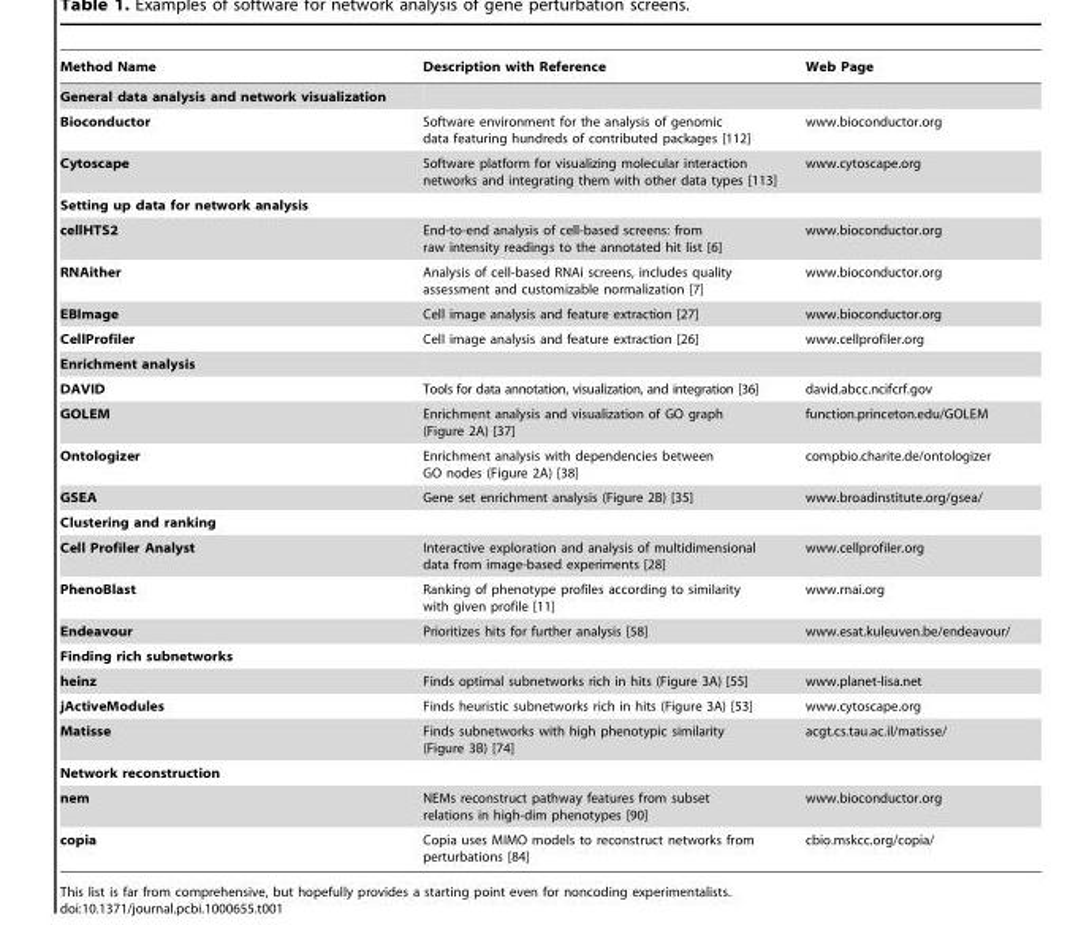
<table><thead><tr><td>Method Name</td><td>Description with Reference</td><td>Web Page</td></tr></thead><tbody><tr><td colspan="3">General data analysis and network visualization</td></tr><tr><td>Bioconductor</td><td>Software environment for the analysis of genomic data featuring hundreds of contributed packages [112]</td><td>www.bioconductor.org</td></tr><tr><td>Cytoscape</td><td>Software platform for visualizing molecular interaction networks and integrating them with other data types [113]</td><td>www.cytoscape.org</td></tr><tr><td colspan="3">Setting up data for network analysis</td></tr><tr><td>cellHTS2</td><td>End-to-end analysis of cell-based screens: from raw intensity readings to the annotated hit list [6]</td><td>www.bioconductor.org</td></tr><tr><td>RNAither</td><td>Analysis of cell-based RNAi screens, includes quality assessment and customizable normalization [7]</td><td>www.bioconductor.org</td></tr><tr><td>EBImage</td><td>Cell image analysis and feature extraction [27]</td><td>www.bioconductor.org</td></tr><tr><td>CellProfiler</td><td>Cell image analysis and feature extraction [26]</td><td>www.cellprofiler.org</td></tr><tr><td colspan="3">Enrichment analysis</td></tr><tr><td>DAVID</td><td>Tools for data annotation, visualization, and integration [36]</td><td>david.abcc.ncifcrf.gov</td></tr><tr><td>GOLEM</td><td>Enrichment analysis and visualization of GO graph (Figure 2A) [37]</td><td>function.princeton.edu/GOLEM</td></tr><tr><td>Ontologizer</td><td>Enrichment analysis with dependencies between GO nodes (Figure 2A) [38]</td><td>compbio.charite.de/ontologizer</td></tr><tr><td>GSEA</td><td>Gene set enrichment analysis (Figure 2B) [35]</td><td>www.broadinstitute.org/gsea/</td></tr><tr><td colspan="3">Clustering and ranking</td></tr><tr><td>Cell Profiler Analyst</td><td>Interactive exploration and analysis of multidimensional data from image-based experiments [28]</td><td>www.cellprofiler.org</td></tr><tr><td>PhenoBlast</td><td>Ranking of phenotype profiles according to similarity with given profile [11]</td><td>www.rnai.org</td></tr><tr><td>Endeavour</td><td>Prioritizes hits for further analysis [58]</td><td>www.esat.kuleuven.be/endeavour/</td></tr><tr><td colspan="3">Finding rich subnetworks</td></tr><tr><td>heinz</td><td>Finds optimal subnetworks rich in hits (Figure 3A) [55]</td><td>www.planet-lisa.net</td></tr><tr><td>jActiveModules</td><td>Finds heuristic subnetworks rich in hits (Figure 3A) [53]</td><td>www.cytoscape.org</td></tr><tr><td>Matisse</td><td>Finds subnetworks with high phenotypic similarity (Figure 3B) [74]</td><td>acgt.cs.tau.ac.il/matisse/</td></tr><tr><td colspan="3">Network reconstruction</td></tr><tr><td>nem</td><td>NEMs reconstruct pathway features from subset relations in high-dim phenotypes [90]</td><td>www.bioconductor.org</td></tr><tr><td>copia</td><td>Copia uses MIMO models to reconstruct networks from perturbations [84]</td><td>cbio.mskcc.org/copia/</td></tr></tbody></table>